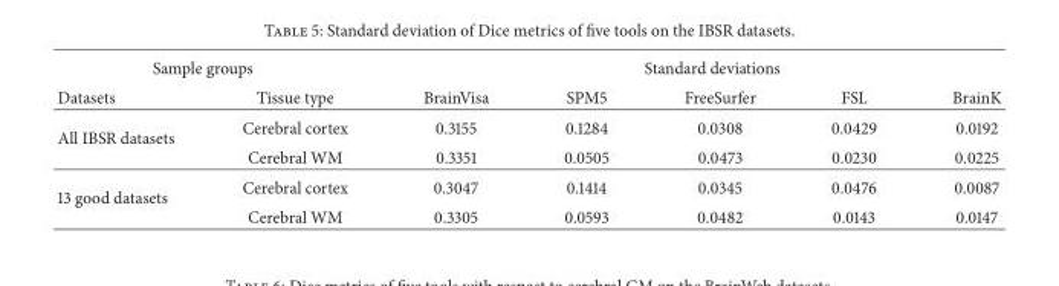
<table><thead><tr><td colspan="2">Sample groups</td><td colspan="5">Standard deviations</td></tr><tr><td>Datasets</td><td>Tissue type</td><td>BrainVisa</td><td>SPM5</td><td>FreeSurfer</td><td>FSL</td><td>BrainK</td></tr></thead><tbody><tr><td rowspan="2">All IBSR datasets</td><td>Cerebral cortex</td><td>0.3155</td><td>0.1284</td><td>0.0308</td><td>0.0429</td><td>0.0192</td></tr><tr><td>Cerebral WM</td><td>0.3351</td><td>0.0505</td><td>0.0473</td><td>0.0230</td><td>0.0225</td></tr><tr><td rowspan="2">13 good datasets</td><td>Cerebral cortex</td><td>0.3047</td><td>0.1414</td><td>0.0345</td><td>0.0476</td><td>0.0087</td></tr><tr><td>Cerebral WM</td><td>0.3305</td><td>0.0593</td><td>0.0482</td><td>0.0143</td><td>0.0147</td></tr></tbody></table>